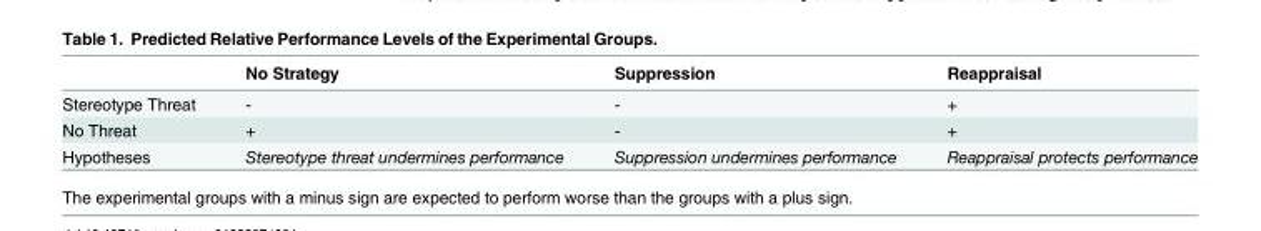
<table><thead><tr><td></td><td>No Strategy</td><td>Suppression</td><td>Reappraisal</td></tr></thead><tbody><tr><td>Stereotype Threat</td><td>-</td><td>-</td><td>+</td></tr><tr><td>No Threat</td><td>+</td><td>-</td><td>+</td></tr><tr><td>Hypotheses</td><td>Stereotype threat undermines performance</td><td>Suppression undermines performance</td><td>Reappraisal protects performance</td></tr></tbody></table>